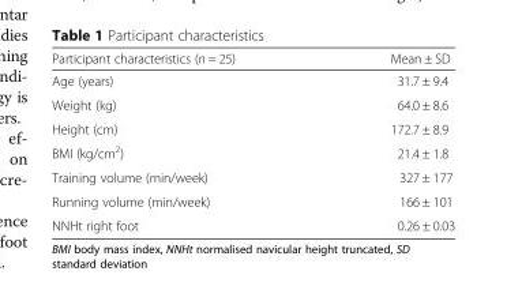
<table><thead><tr><td>Participant characteristics (n = 25)</td><td>Mean ± SD</td></tr></thead><tbody><tr><td>Age (years)</td><td>31.7 ± 9.4</td></tr><tr><td>Weight (kg)</td><td>64.0 ± 8.6</td></tr><tr><td>Height (cm)</td><td>172.7 ± 8.9</td></tr><tr><td>BMI (kg/cm<sup>2</sup>)</td><td>21.4 ± 1.8</td></tr><tr><td>Training volume (min/week)</td><td>327 ± 177</td></tr><tr><td>Running volume (min/week)</td><td>166 ± 101</td></tr><tr><td>NNHt right foot</td><td>0.26 ± 0.03</td></tr></tbody></table>